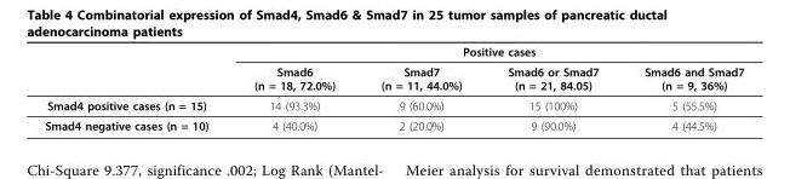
<table><thead><tr><td rowspan="2"></td><td colspan="4">Positive cases</td></tr><tr><td>Smad6 (n = 18, 72.0%)</td><td>Smad7 (n = 11, 44.0%)</td><td>Smad6 or Smad7 (n = 21, 84.05)</td><td>Smad6 and Smad7 (n = 9, 36%)</td></tr></thead><tbody><tr><td>Smad4 positive cases (n = 15)</td><td>14 (93.3%)</td><td>9 (60.0%)</td><td>15 (100%)</td><td>5 (55.5%)</td></tr><tr><td>Smad4 negative cases (n = 10)</td><td>4 (40.0%)</td><td>2 (20.0%)</td><td>9 (90.0%)</td><td>4 (44.5%)</td></tr></tbody></table>